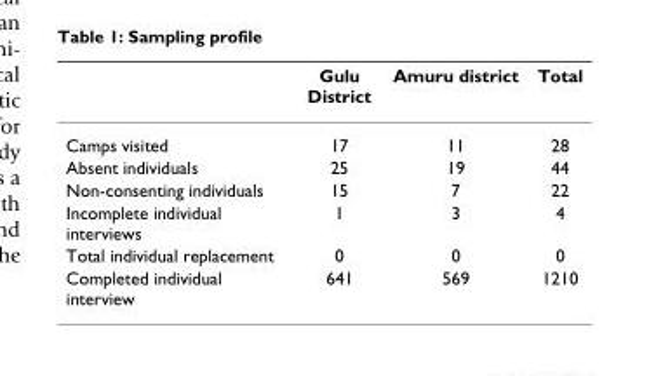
<table><thead><tr><td></td><td>Gulu District</td><td>Amuru district</td><td>Total</td></tr></thead><tbody><tr><td>Camps visited</td><td>17</td><td>11</td><td>28</td></tr><tr><td>Absent individuals</td><td>25</td><td>19</td><td>44</td></tr><tr><td>Non-consenting individuals</td><td>15</td><td>7</td><td>22</td></tr><tr><td>Incomplete individual interviews</td><td>1</td><td>3</td><td>4</td></tr><tr><td>Total individual replacement</td><td>0</td><td>0</td><td>0</td></tr><tr><td>Completed individual interview</td><td>641</td><td>569</td><td>1210</td></tr></tbody></table>